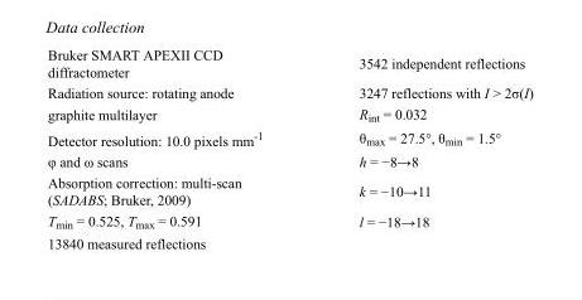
<table><tbody><tr><td>Bruker SMART APEXII CCD diffractometer</td><td>3542 independent reflections</td></tr><tr><td>Radiation source: rotating anode</td><td>3247 reflections with I &gt; 2σ(I)</td></tr><tr><td>graphite multilayer</td><td>R<sub>int</sub> = 0.032</td></tr><tr><td>Detector resolution: 10.0 pixels mm<sup>-1</sup></td><td>θ<sub>max</sub> = 27.5°, θ<sub>min</sub> = 1.5°</td></tr><tr><td>φ and ω scans</td><td>h = −8→8</td></tr><tr><td>Absorption correction: multi-scan (SADABS; Bruker, 2009)</td><td>k = −10→11</td></tr><tr><td>T<sub>min</sub> = 0.525, T<sub>max</sub> = 0.591</td><td>l = −18→18</td></tr><tr><td>13840 measured reflections</td><td></td></tr></tbody></table>